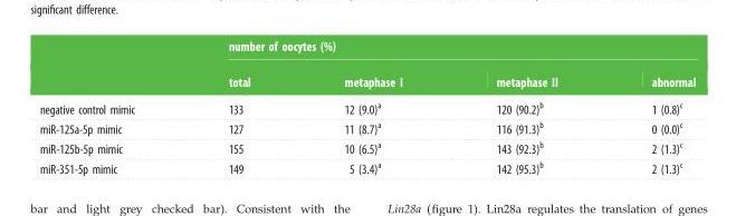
<table><thead><tr><td rowspan="2"></td><td colspan="4">number of oocytes (%)</td></tr><tr><td>total</td><td>metaphase I</td><td>metaphase II</td><td>abnormal</td></tr></thead><tbody><tr><td>negative control mimic</td><td>133</td><td>12 (9.0)<sup>a</sup></td><td>120 (90.2)<sup>b</sup></td><td>1 (0.8)<sup>c</sup></td></tr><tr><td>miR-125a-5p mimic</td><td>127</td><td>11 (8.7)<sup>a</sup></td><td>116 (91.3)<sup>b</sup></td><td>0 (0.0)<sup>c</sup></td></tr><tr><td>miR-125b-5p mimic</td><td>155</td><td>10 (6.5)<sup>a</sup></td><td>143 (92.3)<sup>b</sup></td><td>2 (1.3)<sup>c</sup></td></tr><tr><td>miR-351-5p mimic</td><td>149</td><td>5 (3.4)<sup>a</sup></td><td>142 (95.3)<sup>b</sup></td><td>2 (1.3)<sup>c</sup></td></tr></tbody></table>